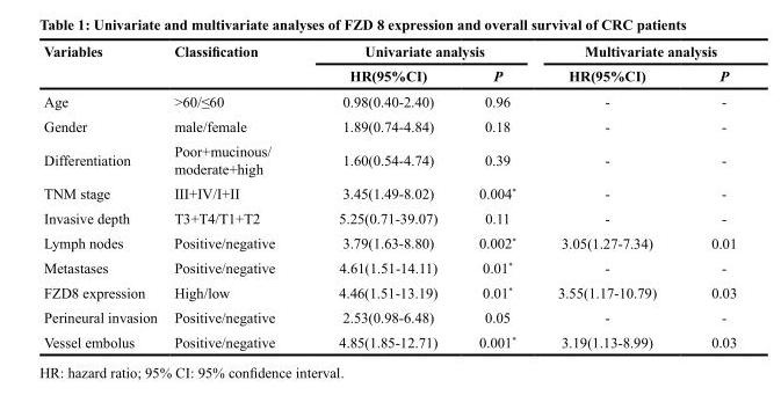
<table><thead><tr><td rowspan="2">Variables</td><td rowspan="2">Classification</td><td colspan="2">Univariate analysis</td><td colspan="2">Multivariate analysis</td></tr><tr><td>HR(95%CI)</td><td>P</td><td>HR(95%CI)</td><td>P</td></tr></thead><tbody><tr><td>Age</td><td>&gt;60/≤60</td><td>0.98(0.40-2.40)</td><td>0.96</td><td>-</td><td>-</td></tr><tr><td>Gender</td><td>male/female</td><td>1.89(0.74-4.84)</td><td>0.18</td><td>-</td><td>-</td></tr><tr><td>Differentiation</td><td>Poor+mucinous/ moderate+high</td><td>1.60(0.54-4.74)</td><td>0.39</td><td>-</td><td>-</td></tr><tr><td>TNM stage</td><td>III+IV/I+II</td><td>3.45(1.49-8.02)</td><td>0.004*</td><td>-</td><td>-</td></tr><tr><td>Invasive depth</td><td>T3+T4/T1+T2</td><td>5.25(0.71-39.07)</td><td>0.11</td><td>-</td><td>-</td></tr><tr><td>Lymph nodes</td><td>Positive/negative</td><td>3.79(1.63-8.80)</td><td>0.002*</td><td>3.05(1.27-7.34)</td><td>0.01</td></tr><tr><td>Metastases</td><td>Positive/negative</td><td>4.61(1.51-14.11)</td><td>0.01*</td><td>-</td><td>-</td></tr><tr><td>FZD8 expression</td><td>High/low</td><td>4.46(1.51-13.19)</td><td>0.01*</td><td>3.55(1.17-10.79)</td><td>0.03</td></tr><tr><td>Perineural invasion</td><td>Positive/negative</td><td>2.53(0.98-6.48)</td><td>0.05</td><td>-</td><td>-</td></tr><tr><td>Vessel embolus</td><td>Positive/negative</td><td>4.85(1.85-12.71)</td><td>0.001*</td><td>3.19(1.13-8.99)</td><td>0.03</td></tr></tbody></table>